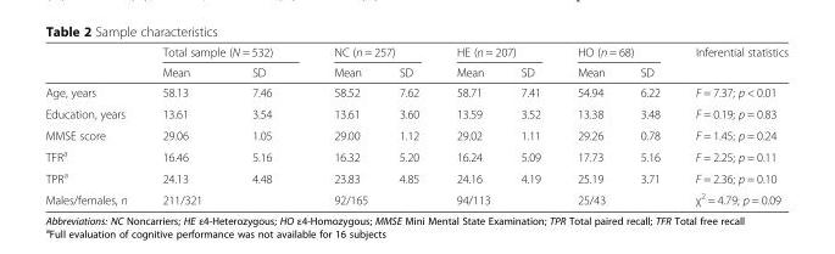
<table><thead><tr><td rowspan="2"></td><td colspan="2">Total sample (N = 532)</td><td colspan="2">NC (n = 257)</td><td colspan="2">HE (n = 207)</td><td colspan="2">HO (n = 68)</td><td rowspan="2">Inferential statistics</td></tr><tr><td>Mean</td><td>SD</td><td>Mean</td><td>SD</td><td>Mean</td><td>SD</td><td>Mean</td><td>SD</td></tr></thead><tbody><tr><td>Age, years</td><td>58.13</td><td>7.46</td><td>58.52</td><td>7.62</td><td>58.71</td><td>7.41</td><td>54.94</td><td>6.22</td><td>F = 7.37; p &lt; 0.01</td></tr><tr><td>Education, years</td><td>13.61</td><td>3.54</td><td>13.61</td><td>3.60</td><td>13.59</td><td>3.52</td><td>13.38</td><td>3.48</td><td>F = 0.19; p = 0.83</td></tr><tr><td>MMSE score</td><td>29.06</td><td>1.05</td><td>29.00</td><td>1.12</td><td>29.02</td><td>1.11</td><td>29.26</td><td>0.78</td><td>F = 1.45; p = 0.24</td></tr><tr><td>TFR<sup>a</sup></td><td>16.46</td><td>5.16</td><td>16.32</td><td>5.20</td><td>16.24</td><td>5.09</td><td>17.73</td><td>5.16</td><td>F = 2.25; p = 0.11</td></tr><tr><td>TPR<sup>a</sup></td><td>24.13</td><td>4.48</td><td>23.83</td><td>4.85</td><td>24.16</td><td>4.19</td><td>25.19</td><td>3.71</td><td>F = 2.36; p = 0.10</td></tr><tr><td>Males/females, n</td><td colspan="2">211/321</td><td colspan="2">92/165</td><td colspan="2">94/113</td><td colspan="2">25/43</td><td>χ<sup>2</sup> = 4.79; p = 0.09</td></tr></tbody></table>